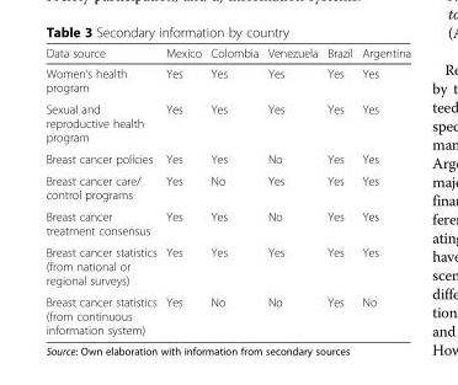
<table><thead><tr><td>Data source</td><td>Mexico</td><td>Colombia</td><td>Venezuela</td><td>Brazil</td><td>Argentina</td></tr></thead><tbody><tr><td>Women’s health program</td><td>Yes</td><td>Yes</td><td>Yes</td><td>Yes</td><td>Yes</td></tr><tr><td>Sexual and reproductive health program</td><td>Yes</td><td>Yes</td><td>Yes</td><td>Yes</td><td>Yes</td></tr><tr><td>Breast cancer policies</td><td>Yes</td><td>Yes</td><td>No</td><td>Yes</td><td>Yes</td></tr><tr><td>Breast cancer care/ control programs</td><td>Yes</td><td>No</td><td>Yes</td><td>Yes</td><td>Yes</td></tr><tr><td>Breast cancer treatment consensus</td><td>Yes</td><td>Yes</td><td>No</td><td>Yes</td><td>Yes</td></tr><tr><td>Breast cancer statistics (from national or regional surveys)</td><td>Yes</td><td>Yes</td><td>Yes</td><td>Yes</td><td>Yes</td></tr><tr><td>Breast cancer statistics (from continuous information system)</td><td>Yes</td><td>No</td><td>No</td><td>Yes</td><td>No</td></tr></tbody></table>